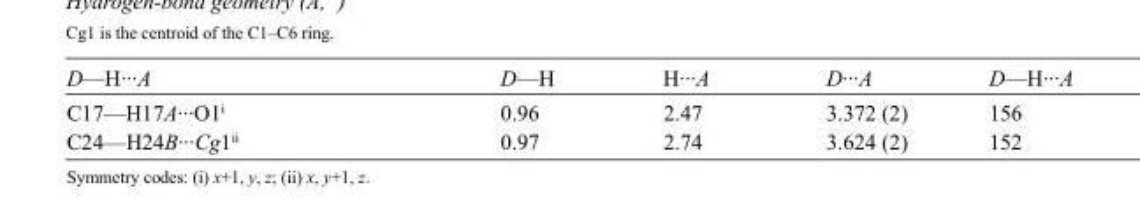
<table><tbody><tr><td>D—H···A</td><td>D—H</td><td>H···A</td><td>D···A</td><td>D—H···A</td></tr><tr><td>C17—H17A···O1<sup>i</sup></td><td>0.96</td><td>2.47</td><td>3.372 (2)</td><td>156</td></tr><tr><td>C24—H24B···Cg1<sup>ii</sup></td><td>0.97</td><td>2.74</td><td>3.624 (2)</td><td>152</td></tr></tbody></table>